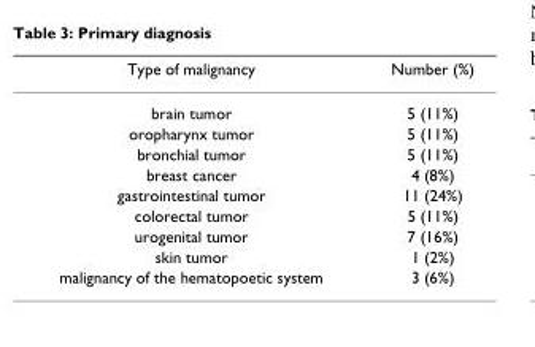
<table><thead><tr><td>Type of malignancy</td><td>Number (%)</td></tr></thead><tbody><tr><td>brain tumor</td><td>5 (11%)</td></tr><tr><td>oropharynx tumor</td><td>5 (11%)</td></tr><tr><td>bronchial tumor</td><td>5 (11%)</td></tr><tr><td>breast cancer</td><td>4 (8%)</td></tr><tr><td>gastrointestinal tumor</td><td>11 (24%)</td></tr><tr><td>colorectal tumor</td><td>5 (11%)</td></tr><tr><td>urogenital tumor</td><td>7 (16%)</td></tr><tr><td>skin tumor</td><td>1 (2%)</td></tr><tr><td>malignancy of the hematopoetic system</td><td>3 (6%)</td></tr></tbody></table>